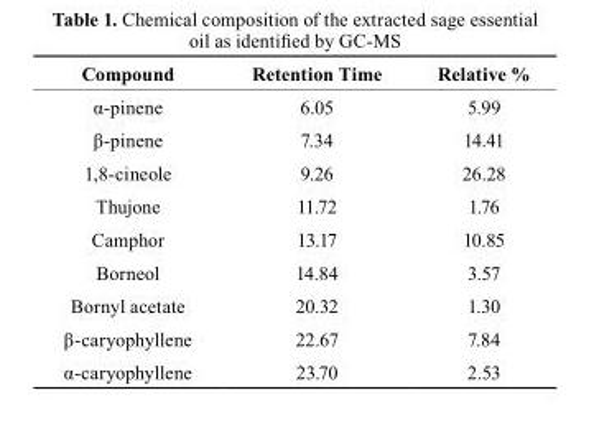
<table><thead><tr><td>compound</td><td>retention time</td><td>Relative %</td></tr></thead><tbody><tr><td>α-pinene</td><td>6.05</td><td>5.99</td></tr><tr><td>β-pinene</td><td>7.34</td><td>14.41</td></tr><tr><td>1,8-cineole</td><td>9.26</td><td>26.28</td></tr><tr><td>Thujone</td><td>11.72</td><td>1.76</td></tr><tr><td>Camphor</td><td>13.17</td><td>10.85</td></tr><tr><td>Borneol</td><td>14.84</td><td>3.57</td></tr><tr><td>Bornyl acetate</td><td>20.32</td><td>1.30</td></tr><tr><td>β-caryophyllene</td><td>22.67</td><td>7.84</td></tr><tr><td>α-caryophyllene</td><td>23.70</td><td>2.53</td></tr></tbody></table>